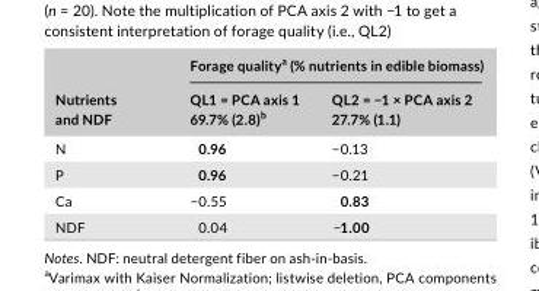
<table><thead><tr><td rowspan="2">Nutrients and NDF</td><td colspan="2">Forage quality<sup>a</sup> (% nutrients in edible biomass)</td></tr><tr><td>QL1 = PCA axis 1 69.7% (2.8)<sup>b</sup></td><td>QL2 = −1 × PCA axis 2 27.7% (1.1)</td></tr></thead><tbody><tr><td>N</td><td>0.96</td><td>−0.13</td></tr><tr><td>P</td><td>0.96</td><td>−0.21</td></tr><tr><td>Ca</td><td>−0.55</td><td>0.83</td></tr><tr><td>NDF</td><td>0.04</td><td>−1.00</td></tr></tbody></table>